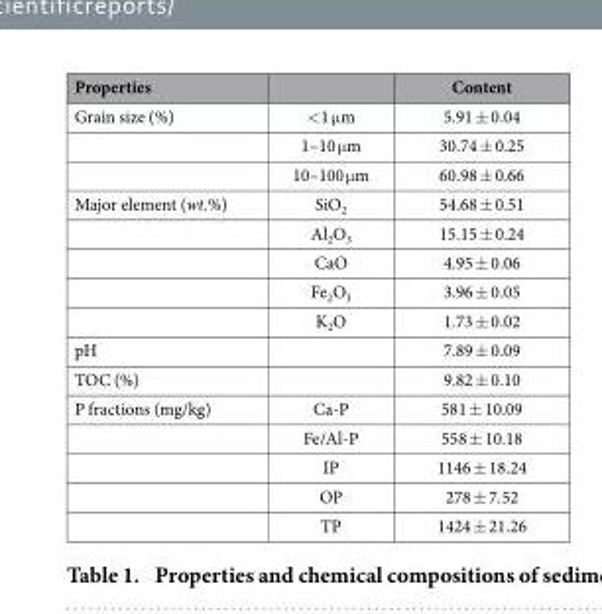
<table><thead><tr><td>Properties</td><td></td><td>Content</td></tr></thead><tbody><tr><td rowspan="3">Grain size (%)</td><td>&lt;1 μm</td><td>5.91 ± 0.04</td></tr><tr><td>1–10 μm</td><td>30.74 ± 0.25</td></tr><tr><td>10–100 μm</td><td>60.98 ± 0.66</td></tr><tr><td rowspan="5">Major element (wt.%)</td><td>SiO<sub>2</sub></td><td>54.68 ± 0.51</td></tr><tr><td>Al<sub>2</sub>O<sub>3</sub></td><td>15.15 ± 0.24</td></tr><tr><td>CaO</td><td>4.95 ± 0.06</td></tr><tr><td>Fe<sub>2</sub>O<sub>3</sub></td><td>3.96 ± 0.05</td></tr><tr><td>K<sub>2</sub>O</td><td>1.73 ± 0.02</td></tr><tr><td>pH</td><td></td><td>7.89 ± 0.09</td></tr><tr><td>TOC (%)</td><td></td><td>9.82 ± 0.10</td></tr><tr><td rowspan="5">P fractions (mg/kg)</td><td>Ca-P</td><td>581 ± 10.09</td></tr><tr><td>Fe/Al-P</td><td>558 ± 10.18</td></tr><tr><td>IP</td><td>1146 ± 18.24</td></tr><tr><td>OP</td><td>278 ± 7.52</td></tr><tr><td>TP</td><td>1424 ± 21.26</td></tr></tbody></table>